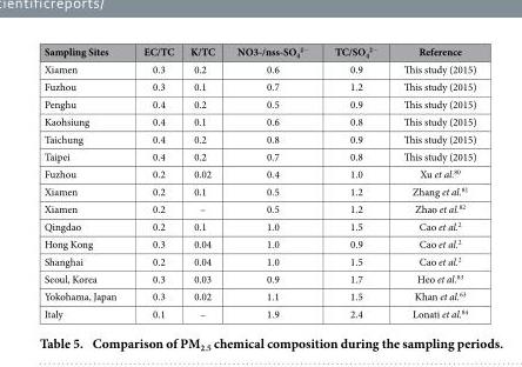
<table><thead><tr><td>Sampling Sites</td><td>EC/TC</td><td>K/TC</td><td>NO3-/nss-SO<sub>4</sub> <sup>2−</sup></td><td>TC/SO<sub>4</sub> <sup>2−</sup></td><td>Reference</td></tr></thead><tbody><tr><td>Xiamen</td><td>0.3</td><td>0.2</td><td>0.6</td><td>0.9</td><td>This study (2015)</td></tr><tr><td>Fuzhou</td><td>0.3</td><td>0.1</td><td>0.7</td><td>1.2</td><td>This study (2015)</td></tr><tr><td>Penghu</td><td>0.4</td><td>0.2</td><td>0.5</td><td>0.9</td><td>This study (2015)</td></tr><tr><td>Kaohsiung</td><td>0.4</td><td>0.1</td><td>0.6</td><td>0.8</td><td>This study (2015)</td></tr><tr><td>Taichung</td><td>0.4</td><td>0.2</td><td>0.8</td><td>0.9</td><td>This study (2015)</td></tr><tr><td>Taipei</td><td>0.4</td><td>0.2</td><td>0.7</td><td>0.8</td><td>This study (2015)</td></tr><tr><td>Fuzhou</td><td>0.2</td><td>0.02</td><td>0.4</td><td>1.0</td><td>Xu et al.<sup>80</sup></td></tr><tr><td>Xiamen</td><td>0.2</td><td>0.1</td><td>0.5</td><td>1.2</td><td>Zhang et al.<sup>81</sup></td></tr><tr><td>Xiamen</td><td>0.2</td><td>–</td><td>0.5</td><td>1.2</td><td>Zhao et al.<sup>82</sup></td></tr><tr><td>Qingdao</td><td>0.2</td><td>0.1</td><td>1.0</td><td>1.5</td><td>Cao et al.<sup>2</sup></td></tr><tr><td>Hong Kong</td><td>0.3</td><td>0.04</td><td>1.0</td><td>0.9</td><td>Cao et al.<sup>2</sup></td></tr><tr><td>Shanghai</td><td>0.2</td><td>0.04</td><td>1.0</td><td>1.5</td><td>Cao et al.<sup>2</sup></td></tr><tr><td>Seoul, Korea</td><td>0.3</td><td>0.03</td><td>0.9</td><td>1.7</td><td>Heo et al.<sup>83</sup></td></tr><tr><td>Yokohama, Japan</td><td>0.3</td><td>0.02</td><td>1.1</td><td>1.5</td><td>Khan et al.<sup>63</sup></td></tr><tr><td>Italy</td><td>0.1</td><td>–</td><td>1.9</td><td>2.4</td><td>Lonati et al.<sup>84</sup></td></tr></tbody></table>